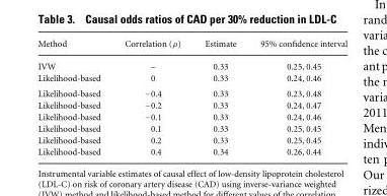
<table><thead><tr><td>Method</td><td>Correlation (ρ)</td><td>Estimate</td><td>95% confidence interval</td></tr></thead><tbody><tr><td>IVW</td><td>–</td><td>0.33</td><td>0.25, 0.45</td></tr><tr><td>Likelihood-based</td><td>0</td><td>0.33</td><td>0.24, 0.46</td></tr><tr><td>Likelihood-based</td><td>– 0.4</td><td>0.33</td><td>0.23, 0.48</td></tr><tr><td>Likelihood-based</td><td>– 0.2</td><td>0.33</td><td>0.24, 0.47</td></tr><tr><td>Likelihood-based</td><td>– 0.1</td><td>0.33</td><td>0.24, 0.46</td></tr><tr><td>Likelihood-based</td><td>0.1</td><td>0.33</td><td>0.25, 0.45</td></tr><tr><td>Likelihood-based</td><td>0.2</td><td>0.33</td><td>0.25, 0.45</td></tr><tr><td>Likelihood-based</td><td>0.4</td><td>0.34</td><td>0.26, 0.44</td></tr></tbody></table>